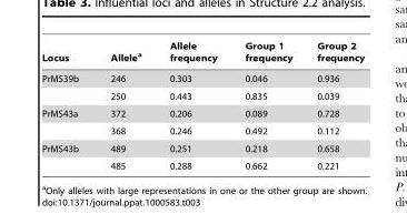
<table><thead><tr><td>Locus</td><td>Allele<sup>a</sup></td><td>Allele frequency</td><td>Group 1 frequency</td><td>Group 2 frequency</td></tr></thead><tbody><tr><td rowspan="2">PrMS39b</td><td>246</td><td>0.303</td><td>0.046</td><td>0.936</td></tr><tr><td>250</td><td>0.443</td><td>0.835</td><td>0.039</td></tr><tr><td rowspan="2">PrMS43a</td><td>372</td><td>0.206</td><td>0.089</td><td>0.728</td></tr><tr><td>368</td><td>0.246</td><td>0.492</td><td>0.112</td></tr><tr><td rowspan="2">PrMS43b</td><td>489</td><td>0.251</td><td>0.218</td><td>0.658</td></tr><tr><td>485</td><td>0.288</td><td>0.662</td><td>0.221</td></tr></tbody></table>